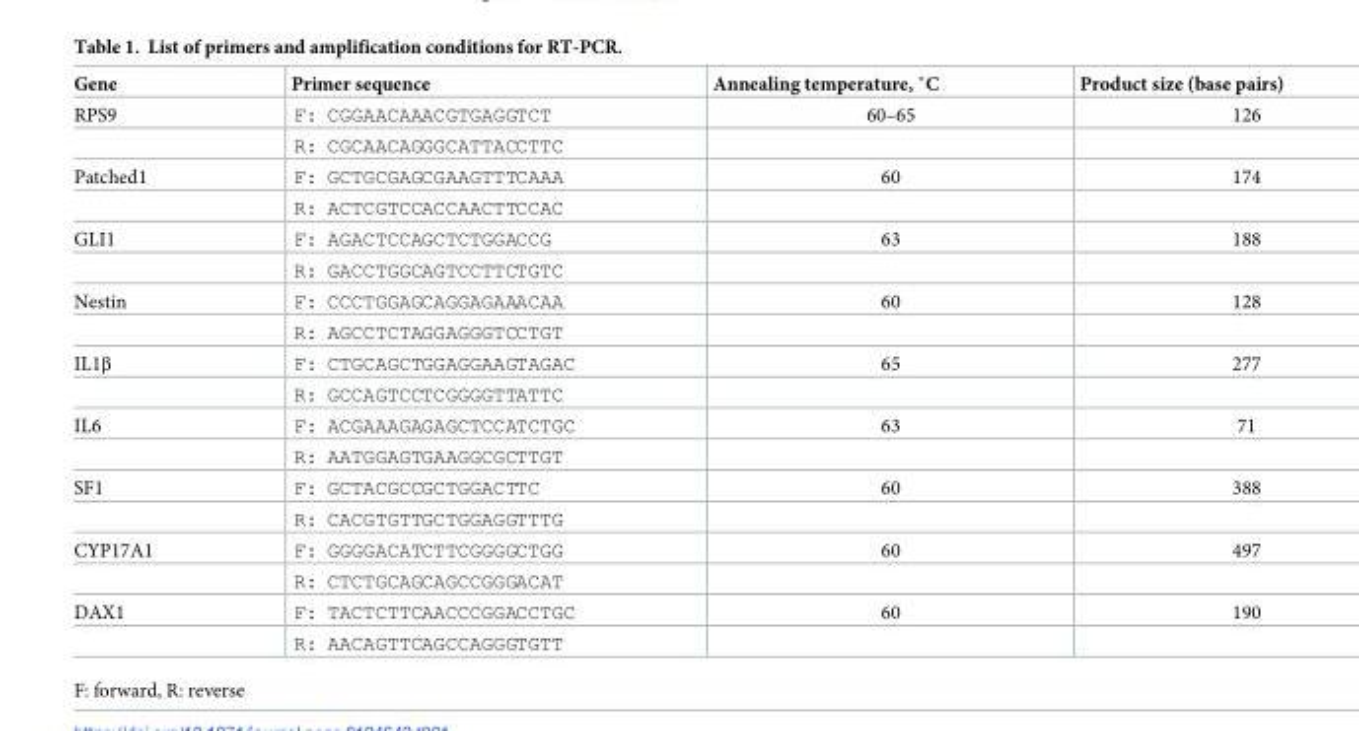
<table><thead><tr><td>Gene</td><td>Primer sequence</td><td>Annealing temperature, ˚C</td><td>Product size (base pairs)</td></tr></thead><tbody><tr><td rowspan="2">RPS9</td><td>F: CGGAACAAACGTGAGGTCT</td><td>60–65</td><td>126</td></tr><tr><td>R: CGCAACAGGGCATTACCTTC</td><td></td><td></td></tr><tr><td rowspan="2">Patched1</td><td>F: GCTGCGAGCGAAGTTTCAAA</td><td>60</td><td>174</td></tr><tr><td>R: ACTCGTCCACCAACTTCCAC</td><td></td><td></td></tr><tr><td rowspan="2">GLI1</td><td>F: AGACTCCAGCTCTGGACCG</td><td>63</td><td>188</td></tr><tr><td>R: GACCTGGCAGTCCTTCTGTC</td><td></td><td></td></tr><tr><td rowspan="2">Nestin</td><td>F: CCCTGGAGCAGGAGAAACAA</td><td>60</td><td>128</td></tr><tr><td>R: AGCCTCTAGGAGGGTCCTGT</td><td></td><td></td></tr><tr><td rowspan="2">IL1β</td><td>F: CTGCAGCTGGAGGAAGTAGAC</td><td>65</td><td>277</td></tr><tr><td>R: GCCAGTCCTCGGGGTTATTC</td><td></td><td></td></tr><tr><td rowspan="2">IL6</td><td>F: ACGAAAGAGAGCTCCATCTGC</td><td>63</td><td>71</td></tr><tr><td>R: AATGGAGTGAAGGCGCTTGT</td><td></td><td></td></tr><tr><td rowspan="2">SF1</td><td>F: GCTACGCCGCTGGACTTC</td><td>60</td><td>388</td></tr><tr><td>R: CACGTGTTGCTGGAGGTTTG</td><td></td><td></td></tr><tr><td rowspan="2">CYP17A1</td><td>F: GGGGACATCTTCGGGGCTGG</td><td>60</td><td>497</td></tr><tr><td>R: CTCTGCAGCAGCCGGGACAT</td><td></td><td></td></tr><tr><td rowspan="2">DAX1</td><td>F: TACTCTTCAACCCGGACCTGC</td><td>60</td><td>190</td></tr><tr><td>R: AACAGTTCAGCCAGGGTGTT</td><td></td><td></td></tr></tbody></table>